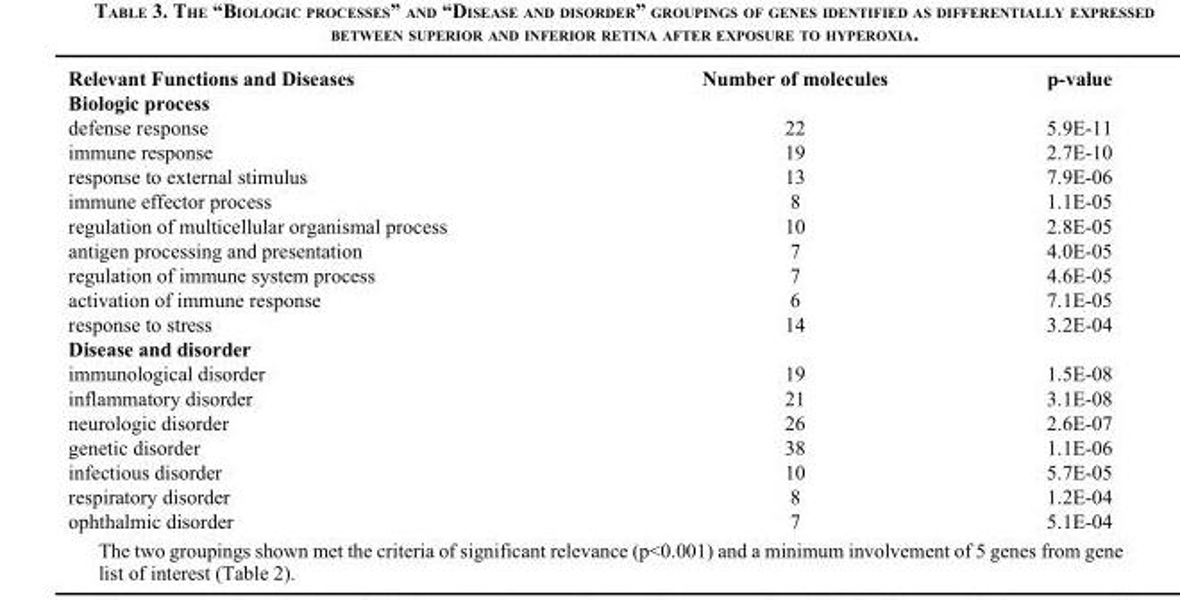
<table><thead><tr><td>Relevant Functions and Diseases</td><td>Number of molecules</td><td>p-value</td></tr></thead><tbody><tr><td colspan="3">Biologic process</td></tr><tr><td>defense response</td><td>22</td><td>5.9E-11</td></tr><tr><td>immune response</td><td>19</td><td>2.7E-10</td></tr><tr><td>response to external stimulus</td><td>13</td><td>7.9E-06</td></tr><tr><td>immune effector process</td><td>8</td><td>1.1E-05</td></tr><tr><td>regulation of multicellular organismal process</td><td>10</td><td>2.8E-05</td></tr><tr><td>antigen processing and presentation</td><td>7</td><td>4.0E-05</td></tr><tr><td>regulation of immune system process</td><td>7</td><td>4.6E-05</td></tr><tr><td>activation of immune response</td><td>6</td><td>7.1E-05</td></tr><tr><td>response to stress</td><td>14</td><td>3.2E-04</td></tr><tr><td colspan="3">Disease and disorder</td></tr><tr><td>immunological disorder</td><td>19</td><td>1.5E-08</td></tr><tr><td>inflammatory disorder</td><td>21</td><td>3.1E-08</td></tr><tr><td>neurologic disorder</td><td>26</td><td>2.6E-07</td></tr><tr><td>genetic disorder</td><td>38</td><td>1.1E-06</td></tr><tr><td>infectious disorder</td><td>10</td><td>5.7E-05</td></tr><tr><td>respiratory disorder</td><td>8</td><td>1.2E-04</td></tr><tr><td>ophthalmic disorder</td><td>7</td><td>5.1E-04</td></tr></tbody></table>